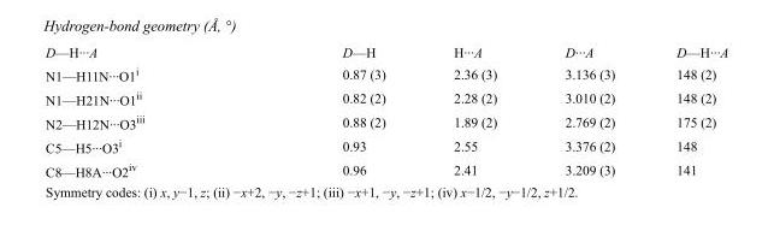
<table><tbody><tr><td>D—H···A</td><td>D—H</td><td>H···A</td><td>D···A</td><td>D—H···A</td></tr><tr><td>N1—H11N···O1<sup>i</sup></td><td>0.87 (3)</td><td>2.36 (3)</td><td>3.136 (3)</td><td>148 (2)</td></tr><tr><td>N1—H21N···O1<sup>ii</sup></td><td>0.82 (2)</td><td>2.28 (2)</td><td>3.010 (2)</td><td>148 (2)</td></tr><tr><td>N2—H12N···O3<sup>iii</sup></td><td>0.88 (2)</td><td>1.89 (2)</td><td>2.769 (2)</td><td>175 (2)</td></tr><tr><td>C5—H5···O3<sup>i</sup></td><td>0.93</td><td>2.55</td><td>3.376 (2)</td><td>148</td></tr><tr><td>C8—H8A···O2<sup>iv</sup></td><td>0.96</td><td>2.41</td><td>3.209 (3)</td><td>141</td></tr></tbody></table>